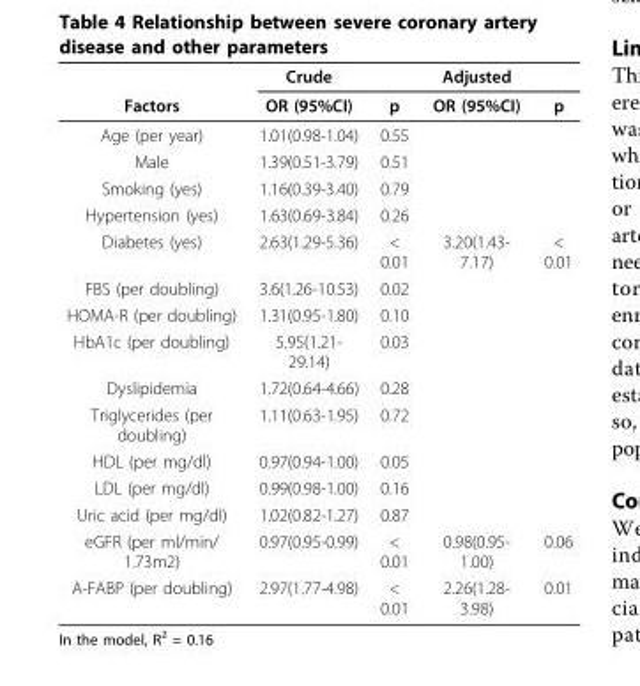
<table><thead><tr><td rowspan="2">Factors</td><td rowspan="2">Crude OR (95%CI)</td><td rowspan="2">p</td><td rowspan="2">Adjusted OR (95%CI)</td><td rowspan="2">p</td></tr><tr></tr></thead><tbody><tr><td>Age (per year)</td><td>1.01(0.98-1.04)</td><td>0.55</td><td></td><td></td></tr><tr><td>Male</td><td>1.39(0.51-3.79)</td><td>0.51</td><td></td><td></td></tr><tr><td>Smoking (yes)</td><td>1.16(0.39-3.40)</td><td>0.79</td><td></td><td></td></tr><tr><td>Hypertension (yes)</td><td>1.63(0.69-3.84)</td><td>0.26</td><td></td><td></td></tr><tr><td>Diabetes (yes)</td><td>2.63(1.29-5.36)</td><td>&lt; 0.01</td><td>3.20(1.43- 7.17)</td><td>&lt; 0.01</td></tr><tr><td>FBS (per doubling)</td><td>3.6(1.26-10.53)</td><td>0.02</td><td></td><td></td></tr><tr><td>HOMA-R (per doubling)</td><td>1.31(0.95-1.80)</td><td>0.10</td><td></td><td></td></tr><tr><td>HbA1c (per doubling)</td><td>5.95(1.21- 29.14)</td><td>0.03</td><td></td><td></td></tr><tr><td>Dyslipidemia</td><td>1.72(0.64-4.66)</td><td>0.28</td><td></td><td></td></tr><tr><td>Triglycerides (per doubling)</td><td>1.11(0.63-1.95)</td><td>0.72</td><td></td><td></td></tr><tr><td>HDL (per mg/dl)</td><td>0.97(0.94-1.00)</td><td>0.05</td><td></td><td></td></tr><tr><td>LDL (per mg/dl)</td><td>0.99(0.98-1.00)</td><td>0.16</td><td></td><td></td></tr><tr><td>Uric acid (per mg/dl)</td><td>1.02(0.82-1.27)</td><td>0.87</td><td></td><td></td></tr><tr><td>eGFR (per ml/min/ 1.73m2)</td><td>0.97(0.95-0.99)</td><td>&lt; 0.01</td><td>0.98(0.95- 1.00)</td><td>0.06</td></tr><tr><td>A-FABP (per doubling)</td><td>2.97(1.77-4.98)</td><td>&lt; 0.01</td><td>2.26(1.28- 3.98)</td><td>0.01</td></tr></tbody></table>